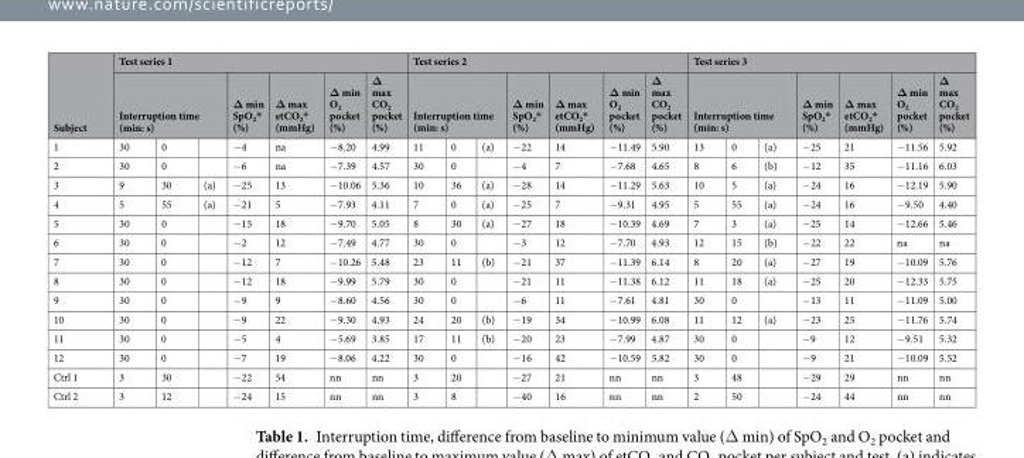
<table><thead><tr><td rowspan="3">Subject 1</td><td colspan="7">Test series 1</td><td colspan="7">Test series 2</td><td colspan="7">Test series 3</td></tr><tr><td colspan="3">Interruption time (min: s)</td><td rowspan="2">Δ min SpO<sub>2</sub>* (%) −4</td><td rowspan="2">Δ max etCO<sub>2</sub>* (mmHg) na</td><td rowspan="2">Δ min O<sub>2</sub> pocket (%) −8.20</td><td rowspan="2">Δ max CO<sub>2</sub> pocket (%) 4.99</td><td colspan="3">Interruption time (min: s)</td><td rowspan="2">Δ min SpO<sub>2</sub>* (%) −22</td><td rowspan="2">Δ max etCO<sub>2</sub>* (mmHg) 14</td><td rowspan="2">Δ min O<sub>2</sub> pocket (%) −11.49</td><td rowspan="2">Δ max CO<sub>2</sub> pocket (%) 5.90</td><td colspan="3">Interruption time (min: s)</td><td rowspan="2">Δ min SpO<sub>2</sub>* (%) −25</td><td rowspan="2">Δ max etCO<sub>2</sub>* (mmHg) 21</td><td rowspan="2">Δ min O<sub>2</sub> pocket (%) −11.56</td><td rowspan="2">Δ max CO<sub>2</sub> pocket (%) 5.92</td></tr><tr><td>30</td><td>0</td><td></td><td>11</td><td>0</td><td>(a)</td><td>13</td><td>0</td><td>(a)</td></tr></thead><tbody><tr><td>2</td><td>30</td><td>0</td><td></td><td>−6</td><td>na</td><td>−7.39</td><td>4.57</td><td>30</td><td>0</td><td></td><td>−4</td><td>7</td><td>−7.68</td><td>4.65</td><td>8</td><td>6</td><td>(b)</td><td>−12</td><td>35</td><td>−11.16</td><td>6.03</td></tr><tr><td>3</td><td>9</td><td>30</td><td>(a)</td><td>−25</td><td>13</td><td>−10.06</td><td>5.36</td><td>10</td><td>36</td><td>(a)</td><td>−28</td><td>14</td><td>−11.29</td><td>5.63</td><td>10</td><td>5</td><td>(a)</td><td>−24</td><td>16</td><td>−12.19</td><td>5.90</td></tr><tr><td>4</td><td>5</td><td>55</td><td>(a)</td><td>−21</td><td>5</td><td>−7.93</td><td>4.11</td><td>7</td><td>0</td><td>(a)</td><td>−25</td><td>7</td><td>−9.31</td><td>4.95</td><td>5</td><td>55</td><td>(a)</td><td>−24</td><td>16</td><td>−9.50</td><td>4.40</td></tr><tr><td>5</td><td>30</td><td>0</td><td></td><td>−15</td><td>18</td><td>−9.70</td><td>5.05</td><td>8</td><td>30</td><td>(a)</td><td>−27</td><td>18</td><td>−10.39</td><td>4.69</td><td>7</td><td>3</td><td>(a)</td><td>−25</td><td>14</td><td>−12.66</td><td>5.46</td></tr><tr><td>6</td><td>30</td><td>0</td><td></td><td>−2</td><td>12</td><td>−7.49</td><td>4.77</td><td>30</td><td>0</td><td></td><td>−3</td><td>12</td><td>−7.70</td><td>4.93</td><td>12</td><td>15</td><td>(b)</td><td>−22</td><td>22</td><td>na</td><td>na</td></tr><tr><td>7</td><td>30</td><td>0</td><td></td><td>−12</td><td>7</td><td>−10.26</td><td>5.48</td><td>23</td><td>11</td><td>(b)</td><td>−21</td><td>37</td><td>−11.39</td><td>6.14</td><td>8</td><td>20</td><td>(a)</td><td>−27</td><td>19</td><td>−10.09</td><td>5.76</td></tr><tr><td>8</td><td>30</td><td>0</td><td></td><td>−12</td><td>18</td><td>−9.99</td><td>5.79</td><td>30</td><td>0</td><td></td><td>−21</td><td>11</td><td>−11.38</td><td>6.12</td><td>11</td><td>18</td><td>(a)</td><td>−25</td><td>20</td><td>−12.33</td><td>5.75</td></tr><tr><td>9</td><td>30</td><td>0</td><td></td><td>−9</td><td>9</td><td>−8.60</td><td>4.56</td><td>30</td><td>0</td><td></td><td>−6</td><td>11</td><td>−7.61</td><td>4.81</td><td>30</td><td>0</td><td></td><td>−13</td><td>11</td><td>−11.09</td><td>5.00</td></tr><tr><td>10</td><td>30</td><td>0</td><td></td><td>−9</td><td>22</td><td>−9.30</td><td>4.93</td><td>24</td><td>20</td><td>(b)</td><td>−19</td><td>34</td><td>−10.99</td><td>6.08</td><td>11</td><td>12</td><td>(a)</td><td>−23</td><td>25</td><td>−11.76</td><td>5.74</td></tr><tr><td>11</td><td>30</td><td>0</td><td></td><td>−5</td><td>4</td><td>−5.69</td><td>3.85</td><td>17</td><td>11</td><td>(b)</td><td>−20</td><td>23</td><td>−7.99</td><td>4.87</td><td>30</td><td>0</td><td></td><td>−9</td><td>12</td><td>−9.51</td><td>5.32</td></tr><tr><td>12</td><td>30</td><td>0</td><td></td><td>−7</td><td>19</td><td>−8.06</td><td>4.22</td><td>30</td><td>0</td><td></td><td>−16</td><td>42</td><td>−10.59</td><td>5.82</td><td>30</td><td>0</td><td></td><td>−9</td><td>21</td><td>−10.09</td><td>5.52</td></tr><tr><td>Ctrl 1</td><td>3</td><td>30</td><td></td><td>−22</td><td>54</td><td>nn</td><td>nn</td><td>3</td><td>20</td><td></td><td>−27</td><td>21</td><td>nn</td><td>nn</td><td>3</td><td>48</td><td></td><td>−29</td><td>29</td><td>nn</td><td>nn</td></tr><tr><td>Ctrl 2</td><td>3</td><td>12</td><td></td><td>−24</td><td>15</td><td>nn</td><td>nn</td><td>3</td><td>8</td><td></td><td>−40</td><td>16</td><td>nn</td><td>nn</td><td>2</td><td>50</td><td></td><td>−24</td><td>44</td><td>nn</td><td>nn</td></tr></tbody></table>